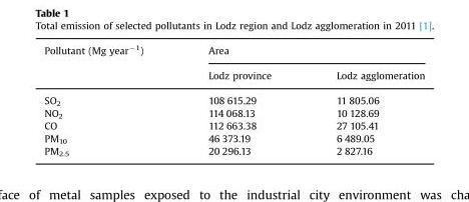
<table><thead><tr><td rowspan="2">Pollutant (Mg year<sup>−1</sup>)</td><td colspan="2">Area</td></tr><tr><td>Lodz province</td><td>Lodz agglomeration</td></tr></thead><tbody><tr><td>SO<sub>2</sub></td><td>108 615.29</td><td>11 805.06</td></tr><tr><td>NO<sub>2</sub></td><td>114 068.13</td><td>10 128.69</td></tr><tr><td>CO</td><td>112 663.38</td><td>27 105.41</td></tr><tr><td>PM<sub>10</sub></td><td>46 373.19</td><td>6 489.05</td></tr><tr><td>PM<sub>2.5</sub></td><td>20 296.13</td><td>2 827.16</td></tr></tbody></table>